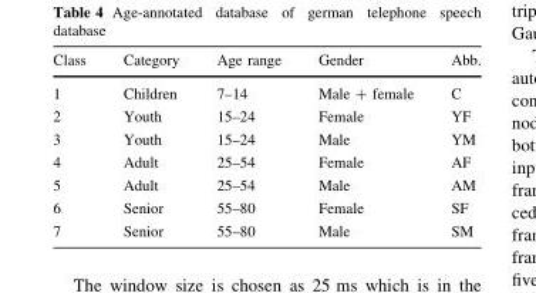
<table><thead><tr><td>Class</td><td>Category</td><td>Age range</td><td>Gender</td><td>Abb.</td></tr></thead><tbody><tr><td>1</td><td>Children</td><td>7–14</td><td>Male + female</td><td>C</td></tr><tr><td>2</td><td>Youth</td><td>15–24</td><td>Female</td><td>YF</td></tr><tr><td>3</td><td>Youth</td><td>15–24</td><td>Male</td><td>YM</td></tr><tr><td>4</td><td>Adult</td><td>25–54</td><td>Female</td><td>AF</td></tr><tr><td>5</td><td>Adult</td><td>25–54</td><td>Male</td><td>AM</td></tr><tr><td>6</td><td>Senior</td><td>55–80</td><td>Female</td><td>SF</td></tr><tr><td>7</td><td>Senior</td><td>55–80</td><td>Male</td><td>SM</td></tr></tbody></table>